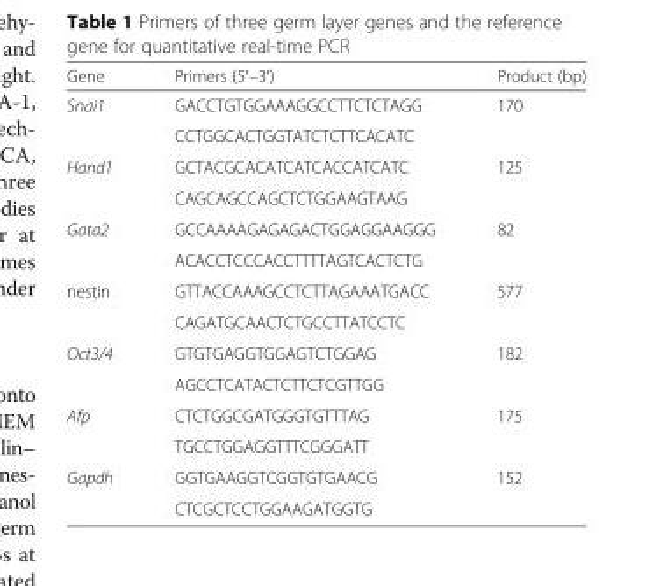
<table><thead><tr><td>Gene</td><td>Primers (5′–3′)</td><td>Product (bp)</td></tr></thead><tbody><tr><td rowspan="2">Snai1</td><td>GACCTGTGGAAAGGCCTTCTCTAGG</td><td rowspan="2">170</td></tr><tr><td>CCTGGCACTGGTATCTCTTCACATC</td></tr><tr><td rowspan="2">Hand1</td><td>GCTACGCACATCATCACCATCATC</td><td rowspan="2">125</td></tr><tr><td>CAGCAGCCAGCTCTGGAAGTAAG</td></tr><tr><td rowspan="2">Gata2</td><td>GCCAAAAGAGAGACTGGAGGAAGGG</td><td rowspan="2">82</td></tr><tr><td>ACACCTCCCACCTTTTAGTCACTCTG</td></tr><tr><td rowspan="2">nestin</td><td>GTTACCAAAGCCTCTTAGAAATGACC</td><td rowspan="2">577</td></tr><tr><td>CAGATGCAACTCTGCCTTATCCTC</td></tr><tr><td rowspan="2">Oct3/4</td><td>GTGTGAGGTGGAGTCTGGAG</td><td rowspan="2">182</td></tr><tr><td>AGCCTCATACTCTTCTCGTTGG</td></tr><tr><td rowspan="2">Afp</td><td>CTCTGGCGATGGGTGTTTAG</td><td rowspan="2">175</td></tr><tr><td>TGCCTGGAGGTTTCGGGATT</td></tr><tr><td rowspan="2">Gapdh</td><td>GGTGAAGGTCGGTGTGAACG</td><td rowspan="2">152</td></tr><tr><td>CTCGCTCCTGGAAGATGGTG</td></tr></tbody></table>